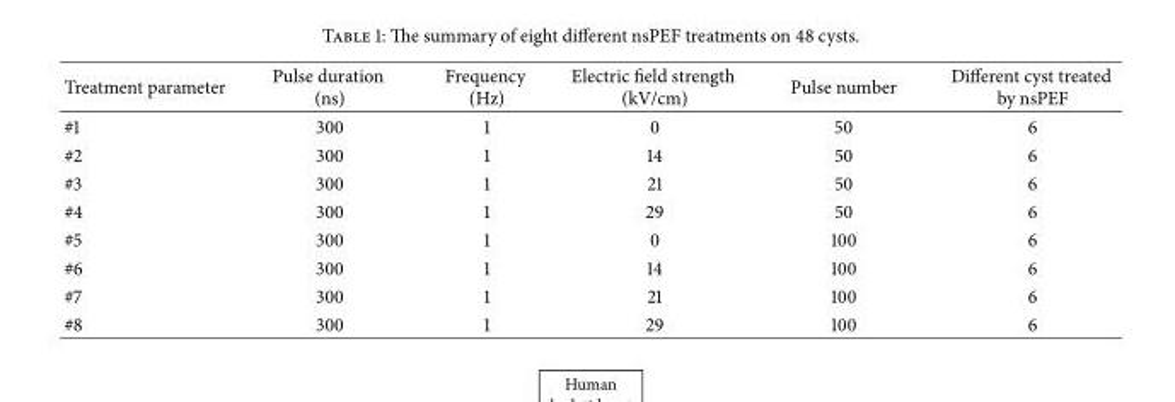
<table><thead><tr><td>Treatment parameter</td><td>Pulse duration (ns)</td><td>Frequency (Hz)</td><td>Electric field strength (kV/cm)</td><td>Pulse number</td><td>Different cyst treated by nsPEF</td></tr></thead><tbody><tr><td>#1</td><td>300</td><td>1</td><td>0</td><td>50</td><td>6</td></tr><tr><td>#2</td><td>300</td><td>1</td><td>14</td><td>50</td><td>6</td></tr><tr><td>#3</td><td>300</td><td>1</td><td>21</td><td>50</td><td>6</td></tr><tr><td>#4</td><td>300</td><td>1</td><td>29</td><td>50</td><td>6</td></tr><tr><td>#5</td><td>300</td><td>1</td><td>0</td><td>100</td><td>6</td></tr><tr><td>#6</td><td>300</td><td>1</td><td>14</td><td>100</td><td>6</td></tr><tr><td>#7</td><td>300</td><td>1</td><td>21</td><td>100</td><td>6</td></tr><tr><td>#8</td><td>300</td><td>1</td><td>29</td><td>100</td><td>6</td></tr></tbody></table>